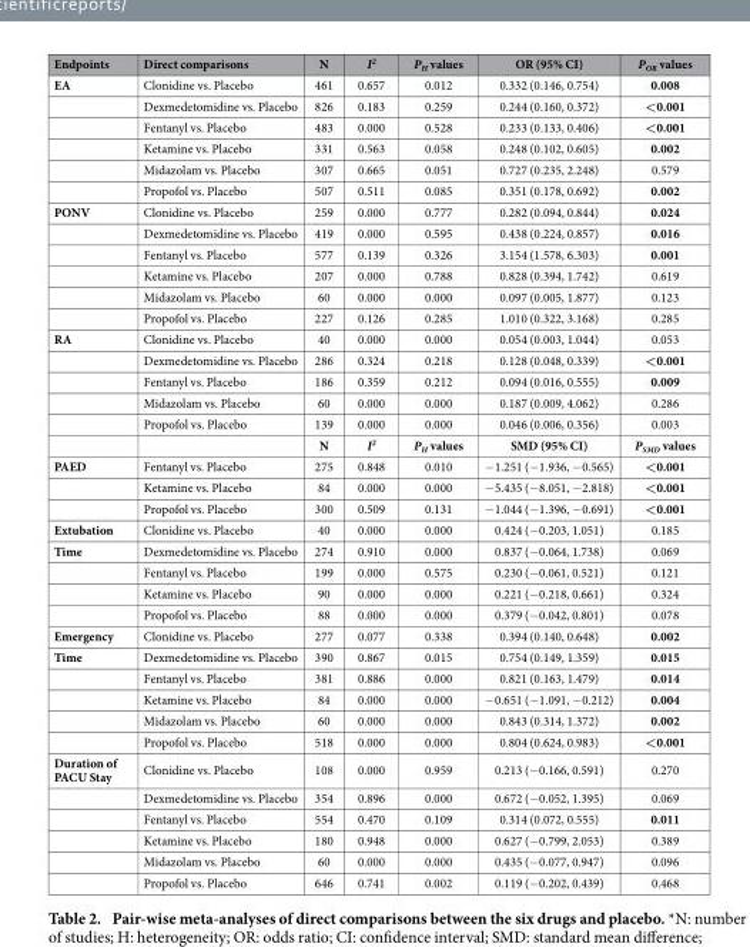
<table><thead><tr><td>Endpoints</td><td>Direct comparisons</td><td>N</td><td>I<sup>2</sup></td><td>P<sub>H</sub> values</td><td>OR (95% CI)</td><td>P<sub>OR</sub> values</td></tr></thead><tbody><tr><td rowspan="6">EA</td><td>Clonidine vs. Placebo</td><td>461</td><td>0.657</td><td>0.012</td><td>0.332 (0.146, 0.754)</td><td>0.008</td></tr><tr><td>Dexmedetomidine vs. Placebo</td><td>826</td><td>0.183</td><td>0.259</td><td>0.244 (0.160, 0.372)</td><td>&lt;0.001</td></tr><tr><td>Fentanyl vs. Placebo</td><td>483</td><td>0.000</td><td>0.528</td><td>0.233 (0.133, 0.406)</td><td>&lt;0.001</td></tr><tr><td>Ketamine vs. Placebo</td><td>331</td><td>0.563</td><td>0.058</td><td>0.248 (0.102, 0.605)</td><td>0.002</td></tr><tr><td>Midazolam vs. Placebo</td><td>307</td><td>0.665</td><td>0.051</td><td>0.727 (0.235, 2.248)</td><td>0.579</td></tr><tr><td>Propofol vs. Placebo</td><td>507</td><td>0.511</td><td>0.085</td><td>0.351 (0.178, 0.692)</td><td>0.002</td></tr><tr><td rowspan="6">PONV</td><td>Clonidine vs. Placebo</td><td>259</td><td>0.000</td><td>0.777</td><td>0.282 (0.094, 0.844)</td><td>0.024</td></tr><tr><td>Dexmedetomidine vs. Placebo</td><td>419</td><td>0.000</td><td>0.595</td><td>0.438 (0.224, 0.857)</td><td>0.016</td></tr><tr><td>Fentanyl vs. Placebo</td><td>577</td><td>0.139</td><td>0.326</td><td>3.154 (1.578, 6.303)</td><td>0.001</td></tr><tr><td>Ketamine vs. Placebo</td><td>207</td><td>0.000</td><td>0.788</td><td>0.828 (0.394, 1.742)</td><td>0.619</td></tr><tr><td>Midazolam vs. Placebo</td><td>60</td><td>0.000</td><td>0.000</td><td>0.097 (0.005, 1.877)</td><td>0.123</td></tr><tr><td>Propofol vs. Placebo</td><td>227</td><td>0.126</td><td>0.285</td><td>1.010 (0.322, 3.168)</td><td>0.285</td></tr><tr><td rowspan="6">RA</td><td>Clonidine vs. Placebo</td><td>40</td><td>0.000</td><td>0.000</td><td>0.054 (0.003, 1.044)</td><td>0.053</td></tr><tr><td>Dexmedetomidine vs. Placebo</td><td>286</td><td>0.324</td><td>0.218</td><td>0.128 (0.048, 0.339)</td><td>&lt;0.001</td></tr><tr><td>Fentanyl vs. Placebo</td><td>186</td><td>0.359</td><td>0.212</td><td>0.094 (0.016, 0.555)</td><td>0.009</td></tr><tr><td>Midazolam vs. Placebo</td><td>60</td><td>0.000</td><td>0.000</td><td>0.187 (0.009, 4.062)</td><td>0.286</td></tr><tr><td>Propofol vs. Placebo</td><td>139</td><td>0.000</td><td>0.000</td><td>0.046 (0.006, 0.356)</td><td>0.003</td></tr><tr><td></td><td>N</td><td>I<sup>2</sup></td><td>P<sub>H</sub> values</td><td>SMD (95% CI)</td><td>P<sub>SMD</sub> values</td></tr><tr><td rowspan="3">PAED</td><td>Fentanyl vs. Placebo</td><td>275</td><td>0.848</td><td>0.010</td><td>− 1.251 (− 1.936, − 0.565)</td><td>&lt;0.001</td></tr><tr><td>Ketamine vs. Placebo</td><td>84</td><td>0.000</td><td>0.000</td><td>− 5.435 (− 8.051, − 2.818)</td><td>&lt;0.001</td></tr><tr><td>Propofol vs. Placebo</td><td>300</td><td>0.509</td><td>0.131</td><td>− 1.044 (− 1.396, − 0.691)</td><td>&lt;0.001</td></tr><tr><td>Extubation</td><td>Clonidine vs. Placebo</td><td>40</td><td>0.000</td><td>0.000</td><td>0.424 (− 0.203, 1.051)</td><td>0.185</td></tr><tr><td rowspan="4">Time</td><td>Dexmedetomidine vs. Placebo</td><td>274</td><td>0.910</td><td>0.000</td><td>0.837 (− 0.064, 1.738)</td><td>0.069</td></tr><tr><td>Fentanyl vs. Placebo</td><td>199</td><td>0.000</td><td>0.575</td><td>0.230 (− 0.061, 0.521)</td><td>0.121</td></tr><tr><td>Ketamine vs. Placebo</td><td>90</td><td>0.000</td><td>0.000</td><td>0.221 (− 0.218, 0.661)</td><td>0.324</td></tr><tr><td>Propofol vs. Placebo</td><td>88</td><td>0.000</td><td>0.000</td><td>0.379 (− 0.042, 0.801)</td><td>0.078</td></tr><tr><td>Emergency</td><td>Clonidine vs. Placebo</td><td>277</td><td>0.077</td><td>0.338</td><td>0.394 (0.140, 0.648)</td><td>0.002</td></tr><tr><td rowspan="5">Time</td><td>Dexmedetomidine vs. Placebo</td><td>390</td><td>0.867</td><td>0.015</td><td>0.754 (0.149, 1.359)</td><td>0.015</td></tr><tr><td>Fentanyl vs. Placebo</td><td>381</td><td>0.886</td><td>0.000</td><td>0.821 (0.163, 1.479)</td><td>0.014</td></tr><tr><td>Ketamine vs. Placebo</td><td>84</td><td>0.000</td><td>0.000</td><td>− 0.651 (− 1.091, − 0.212)</td><td>0.004</td></tr><tr><td>Midazolam vs. Placebo</td><td>60</td><td>0.000</td><td>0.000</td><td>0.843 (0.314, 1.372)</td><td>0.002</td></tr><tr><td>Propofol vs. Placebo</td><td>518</td><td>0.000</td><td>0.000</td><td>0.804 (0.624, 0.983)</td><td>&lt;0.001</td></tr><tr><td rowspan="6">Duration of PACU Stay</td><td>Clonidine vs. Placebo</td><td>108</td><td>0.000</td><td>0.959</td><td>0.213 (− 0.166, 0.591)</td><td>0.270</td></tr><tr><td>Dexmedetomidine vs. Placebo</td><td>354</td><td>0.896</td><td>0.000</td><td>0.672 (− 0.052, 1.395)</td><td>0.069</td></tr><tr><td>Fentanyl vs. Placebo</td><td>554</td><td>0.470</td><td>0.109</td><td>0.314 (0.072, 0.555)</td><td>0.011</td></tr><tr><td>Ketamine vs. Placebo</td><td>180</td><td>0.948</td><td>0.000</td><td>0.627 (− 0.799, 2.053)</td><td>0.389</td></tr><tr><td>Midazolam vs. Placebo</td><td>60</td><td>0.000</td><td>0.000</td><td>0.435 (− 0.077, 0.947)</td><td>0.096</td></tr><tr><td>Propofol vs. Placebo</td><td>646</td><td>0.741</td><td>0.002</td><td>0.119 (− 0.202, 0.439)</td><td>0.468</td></tr></tbody></table>